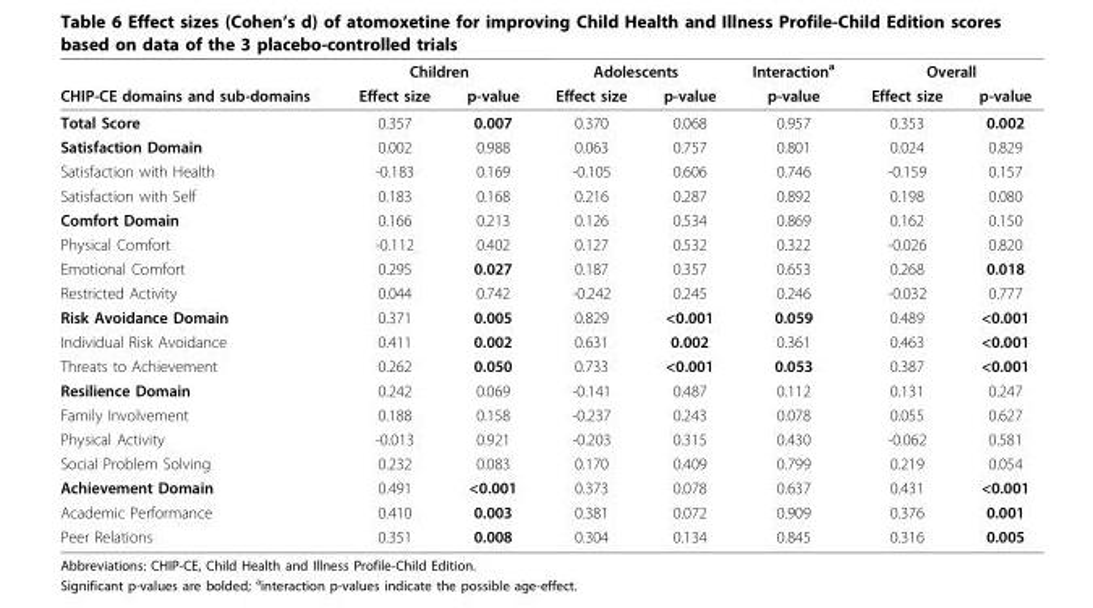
<table><thead><tr><td rowspan="2">CHIP-CE domains and sub-domains</td><td colspan="2">Children</td><td colspan="2">Adolescents</td><td rowspan="2">Interaction<sup>a</sup> p-value</td><td colspan="2">Overall</td></tr><tr><td>Effect size</td><td>p-value</td><td>Effect size</td><td>p-value</td><td>Effect size</td><td>p-value</td></tr></thead><tbody><tr><td>Total Score</td><td>0.357</td><td>0.007</td><td>0.370</td><td>0.068</td><td>0.957</td><td>0.353</td><td>0.002</td></tr><tr><td>Satisfaction Domain</td><td>0.002</td><td>0.988</td><td>0.063</td><td>0.757</td><td>0.801</td><td>0.024</td><td>0.829</td></tr><tr><td>Satisfaction with Health</td><td>-0.183</td><td>0.169</td><td>-0.105</td><td>0.606</td><td>0.746</td><td>-0.159</td><td>0.157</td></tr><tr><td>Satisfaction with Self</td><td>0.183</td><td>0.168</td><td>0.216</td><td>0.287</td><td>0.892</td><td>0.198</td><td>0.080</td></tr><tr><td>Comfort Domain</td><td>0.166</td><td>0.213</td><td>0.126</td><td>0.534</td><td>0.869</td><td>0.162</td><td>0.150</td></tr><tr><td>Physical Comfort</td><td>-0.112</td><td>0.402</td><td>0.127</td><td>0.532</td><td>0.322</td><td>-0.026</td><td>0.820</td></tr><tr><td>Emotional Comfort</td><td>0.295</td><td>0.027</td><td>0.187</td><td>0.357</td><td>0.653</td><td>0.268</td><td>0.018</td></tr><tr><td>Restricted Activity</td><td>0.044</td><td>0.742</td><td>-0.242</td><td>0.245</td><td>0.246</td><td>-0.032</td><td>0.777</td></tr><tr><td>Risk Avoidance Domain</td><td>0.371</td><td>0.005</td><td>0.829</td><td>&lt;0.001</td><td>0.059</td><td>0.489</td><td>&lt;0.001</td></tr><tr><td>Individual Risk Avoidance</td><td>0.411</td><td>0.002</td><td>0.631</td><td>0.002</td><td>0.361</td><td>0.463</td><td>&lt;0.001</td></tr><tr><td>Threats to Achievement</td><td>0.262</td><td>0.050</td><td>0.733</td><td>&lt;0.001</td><td>0.053</td><td>0.387</td><td>&lt;0.001</td></tr><tr><td>Resilience Domain</td><td>0.242</td><td>0.069</td><td>-0.141</td><td>0.487</td><td>0.112</td><td>0.131</td><td>0.247</td></tr><tr><td>Family Involvement</td><td>0.188</td><td>0.158</td><td>-0.237</td><td>0.243</td><td>0.078</td><td>0.055</td><td>0.627</td></tr><tr><td>Physical Activity</td><td>-0.013</td><td>0.921</td><td>-0.203</td><td>0.315</td><td>0.430</td><td>-0.062</td><td>0.581</td></tr><tr><td>Social Problem Solving</td><td>0.232</td><td>0.083</td><td>0.170</td><td>0.409</td><td>0.799</td><td>0.219</td><td>0.054</td></tr><tr><td>Achievement Domain</td><td>0.491</td><td>&lt;0.001</td><td>0.373</td><td>0.078</td><td>0.637</td><td>0.431</td><td>&lt;0.001</td></tr><tr><td>Academic Performance</td><td>0.410</td><td>0.003</td><td>0.381</td><td>0.072</td><td>0.909</td><td>0.376</td><td>0.001</td></tr><tr><td>Peer Relations</td><td>0.351</td><td>0.008</td><td>0.304</td><td>0.134</td><td>0.845</td><td>0.316</td><td>0.005</td></tr></tbody></table>